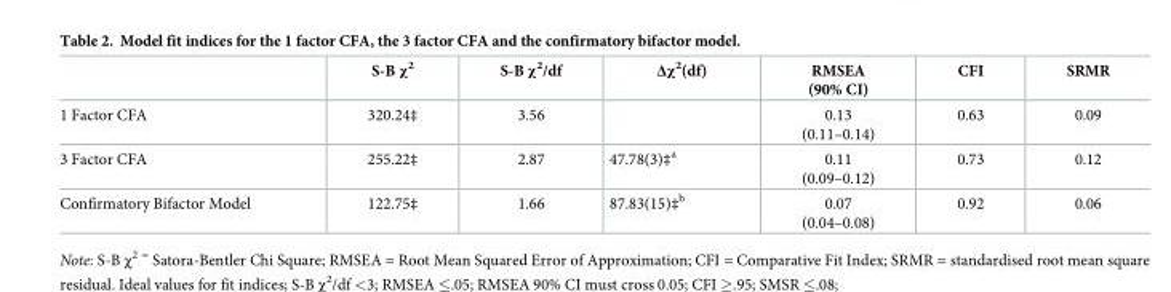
<table><thead><tr><td></td><td>S-B χ<sup>2</sup></td><td>S-B χ<sup>2</sup>/df</td><td>Δχ<sup>2</sup>(df)</td><td>RMSEA (90% CI)</td><td>CFI</td><td>SRMR</td></tr></thead><tbody><tr><td>1 Factor CFA</td><td>320.24‡</td><td>3.56</td><td></td><td>0.13 (0.11–0.14)</td><td>0.63</td><td>0.09</td></tr><tr><td>3 Factor CFA</td><td>255.22‡</td><td>2.87</td><td>47.78(3)‡<sup>a</sup></td><td>0.11 (0.09–0.12)</td><td>0.73</td><td>0.12</td></tr><tr><td>Confirmatory Bifactor Model</td><td>122.75‡</td><td>1.66</td><td>87.83(15)‡<sup>b</sup></td><td>0.07 (0.04–0.08)</td><td>0.92</td><td>0.06</td></tr></tbody></table>